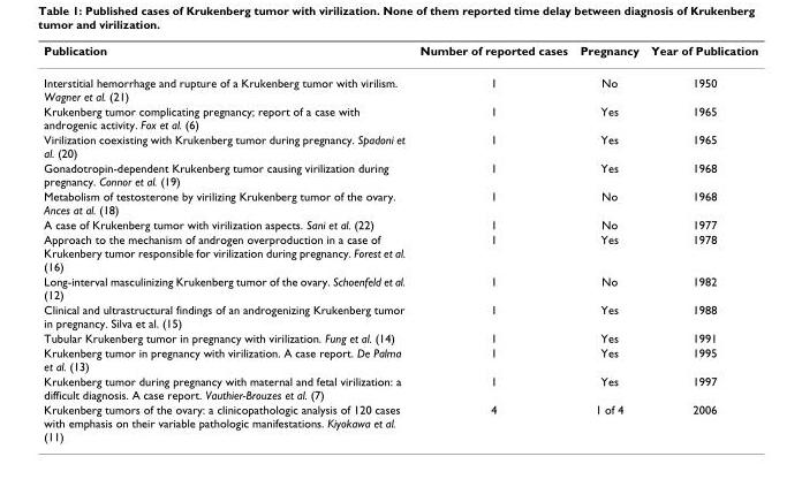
<table><thead><tr><td>Publication</td><td>Number of reported cases</td><td>Pregnancy</td><td>Year of Publication</td></tr></thead><tbody><tr><td>Interstitial hemorrhage and rupture of a Krukenberg tumor with virilism. Wagner et al. (21)</td><td>1</td><td>No</td><td>1950</td></tr><tr><td>Krukenberg tumor complicating pregnancy; report of a case with androgenic activity. Fox et al. (6)</td><td>1</td><td>Yes</td><td>1965</td></tr><tr><td>Virilization coexisting with Krukenberg tumor during pregnancy. Spadoni et al. (20)</td><td>1</td><td>Yes</td><td>1965</td></tr><tr><td>Gonadotropin-dependent Krukenberg tumor causing virilization during pregnancy. Connor et al. (19)</td><td>1</td><td>Yes</td><td>1968</td></tr><tr><td>Metabolism of testosterone by virilizing Krukenberg tumor of the ovary. Ances at al. (18)</td><td>1</td><td>No</td><td>1968</td></tr><tr><td>A case of Krukenberg tumor with virilization aspects. Sani et al. (22)</td><td>1</td><td>No</td><td>1977</td></tr><tr><td>Approach to the mechanism of androgen overproduction in a case of Krukenbery tumor responsible for virilization during pregnancy. Forest et al. (16)</td><td>1</td><td>Yes</td><td>1978</td></tr><tr><td>Long-interval masculinizing Krukenberg tumor of the ovary. Schoenfeld et al. (12)</td><td>1</td><td>No</td><td>1982</td></tr><tr><td>Clinical and ultrastructural findings of an androgenizing Krukenberg tumor in pregnancy. Silva et al. (15)</td><td>1</td><td>Yes</td><td>1988</td></tr><tr><td>Tubular Krukenberg tumor in pregnancy with virilization. Fung et al. (14)</td><td>1</td><td>Yes</td><td>1991</td></tr><tr><td>Krukenberg tumor in pregnancy with virilization. A case report. De Palma et al. (13)</td><td>1</td><td>Yes</td><td>1995</td></tr><tr><td>Krukenberg tumor during pregnancy with maternal and fetal virilization: a difficult diagnosis. A case report. Vauthier-Brouzes et al. (7)</td><td>1</td><td>Yes</td><td>1997</td></tr><tr><td>Krukenberg tumors of the ovary: a clinicopathologic analysis of 120 cases with emphasis on their variable pathologic manifestations. Kiyokawa et al. (11)</td><td>4</td><td>1 of 4</td><td>2006</td></tr></tbody></table>